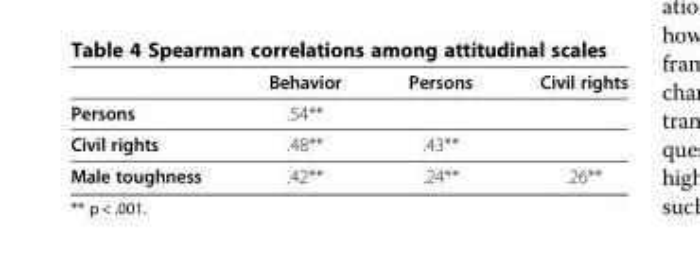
<table><thead><tr><td></td><td>Behavior</td><td>Persons</td><td>Civil rights</td></tr></thead><tbody><tr><td>Persons</td><td>.54**</td><td></td><td></td></tr><tr><td>Civil rights</td><td>.48**</td><td>.43**</td><td></td></tr><tr><td>Male toughness</td><td>.42**</td><td>.24**</td><td>.26**</td></tr></tbody></table>